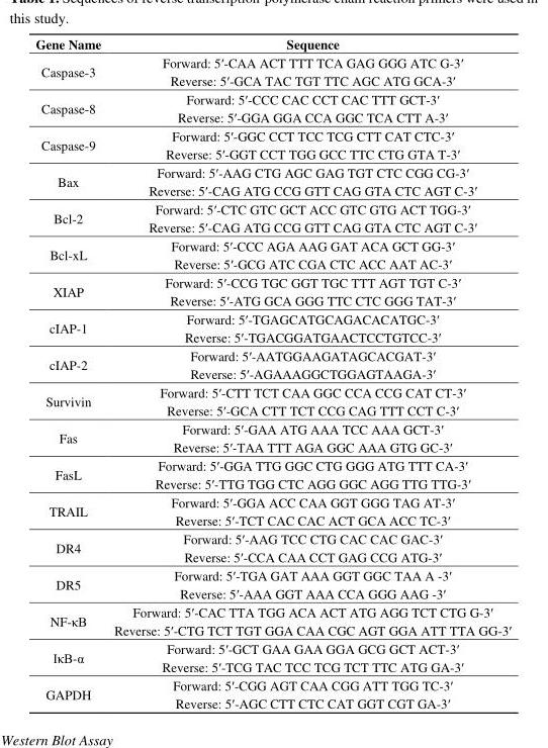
<table><thead><tr><td>Gene Name</td><td>Sequence</td></tr></thead><tbody><tr><td rowspan="2">Caspase-3</td><td>Forward: 5′-CAA ACT TTT TCA GAG GGG ATC G-3′</td></tr><tr><td>Reverse: 5′-GCA TAC TGT TTC AGC ATG GCA-3′</td></tr><tr><td rowspan="2">Caspase-8</td><td>Forward: 5′-CCC CAC CCT CAC TTT GCT-3′</td></tr><tr><td>Reverse: 5′-GGA GGA CCA GGC TCA CTT A-3′</td></tr><tr><td rowspan="2">Caspase-9</td><td>Forward: 5′-GGC CCT TCC TCG CTT CAT CTC-3′</td></tr><tr><td>Reverse: 5′-GGT CCT TGG GCC TTC CTG GTA T-3′</td></tr><tr><td rowspan="2">Bax</td><td>Forward: 5′-AAG CTG AGC GAG TGT CTC CGG CG-3′</td></tr><tr><td>Reverse: 5′-CAG ATG CCG GTT CAG GTA CTC AGT C-3′</td></tr><tr><td rowspan="2">Bcl-2</td><td>Forward: 5′-CTC GTC GCT ACC GTC GTG ACT TGG-3′</td></tr><tr><td>Reverse: 5′-CAG ATG CCG GTT CAG GTA CTC AGT C-3′</td></tr><tr><td rowspan="2">Bcl-xL</td><td>Forward: 5′-CCC AGA AAG GAT ACA GCT GG-3′</td></tr><tr><td>Reverse: 5′-GCG ATC CGA CTC ACC AAT AC-3′</td></tr><tr><td rowspan="2">XIAP</td><td>Forward: 5′-CCG TGC GGT TGC TTT AGT TGT C-3′</td></tr><tr><td>Reverse: 5′-ATG GCA GGG TTC CTC GGG TAT-3′</td></tr><tr><td rowspan="2">cIAP-1</td><td>Forward: 5′-TGAGCATGCAGACACATGC-3′</td></tr><tr><td>Reverse: 5′-TGACGGATGAACTCCTGTCC-3′</td></tr><tr><td rowspan="2">cIAP-2</td><td>Forward: 5′-AATGGAAGATAGCACGAT-3′</td></tr><tr><td>Reverse: 5′-AGAAAGGCTGGAGTAAGA-3′</td></tr><tr><td rowspan="2">Survivin</td><td>Forward: 5′-CTT TCT CAA GGC CCA CCG CAT CT-3′</td></tr><tr><td>Reverse: 5′-GCA CTT TCT CCG CAG TTT CCT C-3′</td></tr><tr><td rowspan="2">Fas</td><td>Forward: 5′-GAA ATG AAA TCC AAA GCT-3′</td></tr><tr><td>Reverse: 5′-TAA TTT AGA GGC AAA GTG GC-3′</td></tr><tr><td rowspan="2">FasL</td><td>Forward: 5′-GGA TTG GGC CTG GGG ATG TTT CA-3′</td></tr><tr><td>Reverse: 5′-TTG TGG CTC AGG GGC AGG TTG TTG-3′</td></tr><tr><td rowspan="2">TRAIL</td><td>Forward: 5′-GGA ACC CAA GGT GGG TAG AT-3′</td></tr><tr><td>Reverse: 5′-TCT CAC CAC ACT GCA ACC TC-3′</td></tr><tr><td rowspan="2">DR4</td><td>Forward: 5′-AAG TCC CTG CAC CAC GAC-3′</td></tr><tr><td>Reverse: 5′-CCA CAA CCT GAG CCG ATG-3′</td></tr><tr><td rowspan="2">DR5</td><td>Forward: 5′-TGA GAT AAA GGT GGC TAA A -3′</td></tr><tr><td>Reverse: 5′-AAA GGT AAA CCA GGG AAG -3′</td></tr><tr><td rowspan="2">NF-κB</td><td>Forward: 5′-CAC TTA TGG ACA ACT ATG AGG TCT CTG G-3′</td></tr><tr><td>Reverse: 5′-CTG TCT TGT GGA CAA CGC AGT GGA ATT TTA GG-3′</td></tr><tr><td rowspan="2">IκB-α</td><td>Forward: 5′-GCT GAA GAA GGA GCG GCT ACT-3′</td></tr><tr><td>Reverse: 5′-TCG TAC TCC TCG TCT TTC ATG GA-3′</td></tr><tr><td rowspan="2">GAPDH</td><td>Forward: 5′-CGG AGT CAA CGG ATT TGG TC-3′</td></tr><tr><td>Reverse: 5′-AGC CTT CTC CAT GGT CGT GA-3′</td></tr></tbody></table>